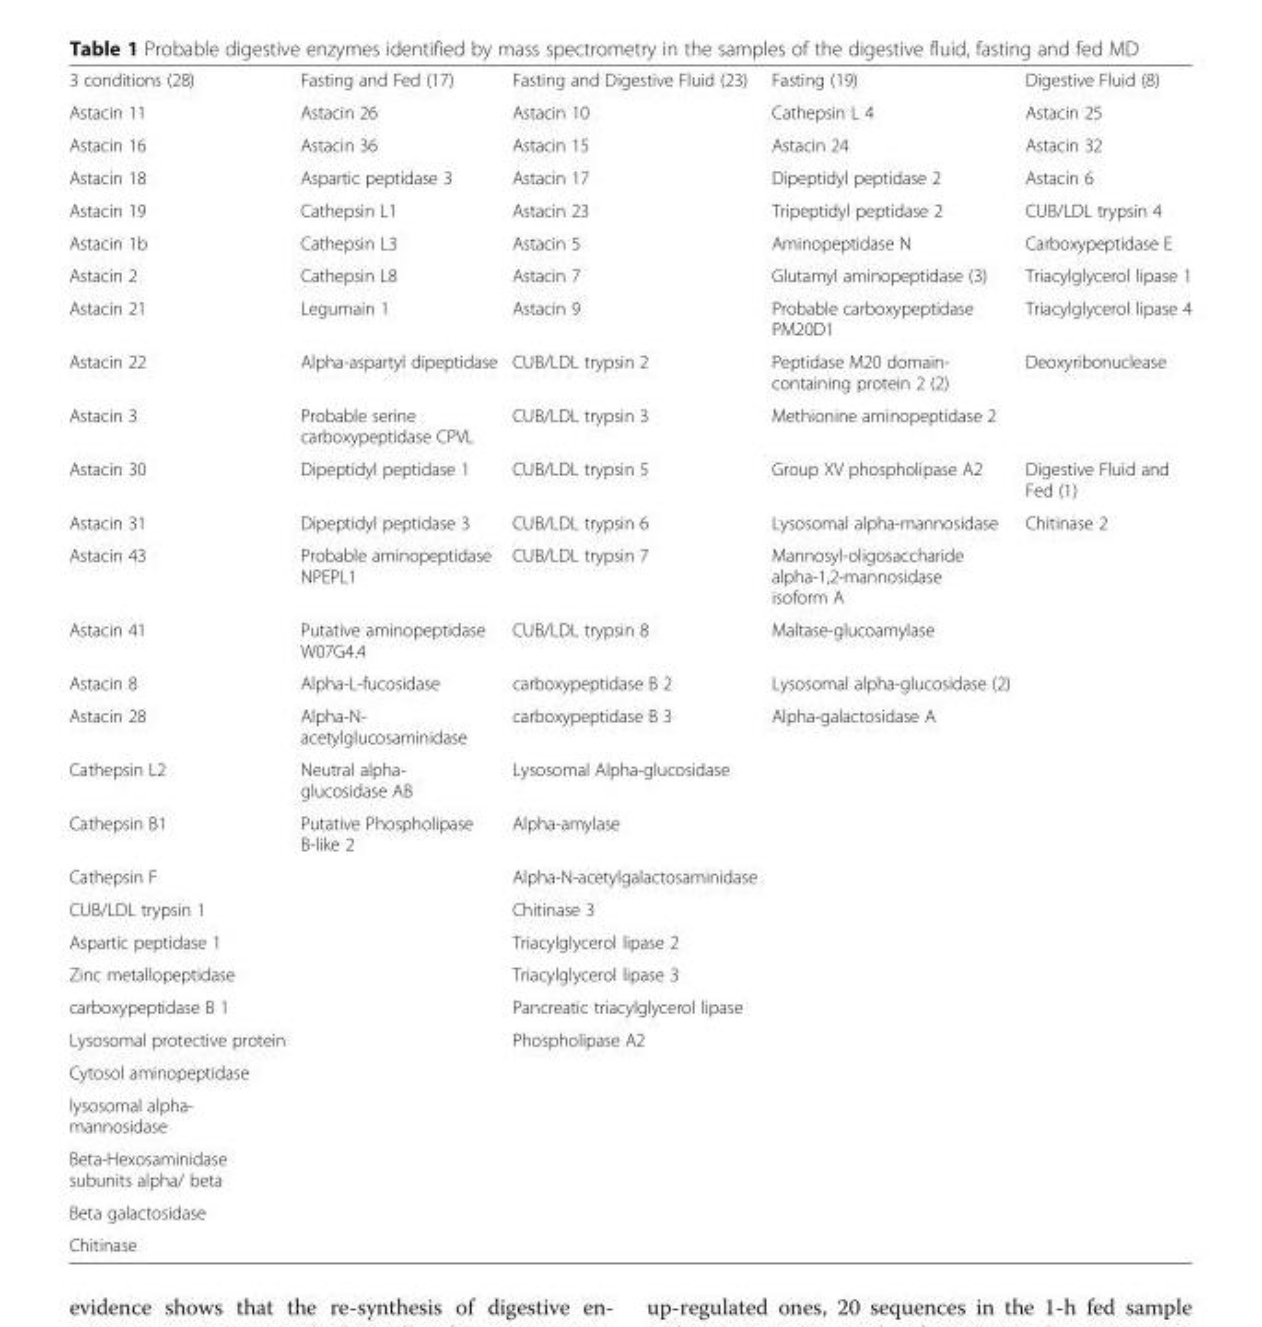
<table><tbody><tr><td>3 conditions (28)</td><td>Fasting and Fed (17)</td><td>Fasting and Digestive Fluid (23)</td><td>Fasting (19)</td><td>Digestive Fluid (8)</td></tr><tr><td>Astacin 11</td><td>Astacin 26</td><td>Astacin 10</td><td>Cathepsin L 4</td><td>Astacin 25</td></tr><tr><td>Astacin 16</td><td>Astacin 36</td><td>Astacin 15</td><td>Astacin 24</td><td>Astacin 32</td></tr><tr><td>Astacin 18</td><td>Aspartic peptidase 3</td><td>Astacin 17</td><td>Dipeptidyl peptidase 2</td><td>Astacin 6</td></tr><tr><td>Astacin 19</td><td>Cathepsin L1</td><td>Astacin 23</td><td>Tripeptidyl peptidase 2</td><td>CUB/LDL trypsin 4</td></tr><tr><td>Astacin 1b</td><td>Cathepsin L3</td><td>Astacin 5</td><td>Aminopeptidase N</td><td>Carboxypeptidase E</td></tr><tr><td>Astacin 2</td><td>Cathepsin L8</td><td>Astacin 7</td><td>Glutamyl aminopeptidase (3)</td><td>Triacylglycerol lipase 1</td></tr><tr><td>Astacin 21</td><td>Legumain 1</td><td>Astacin 9</td><td>Probable carboxypeptidase PM20D1</td><td>Triacylglycerol lipase 4</td></tr><tr><td>Astacin 22</td><td>Alpha-aspartyl dipeptidase</td><td>CUB/LDL trypsin 2</td><td>Peptidase M20 domain- containing protein 2 (2)</td><td>Deoxyribonuclease</td></tr><tr><td>Astacin 3</td><td>Probable serine carboxypeptidase CPVL</td><td>CUB/LDL trypsin 3</td><td>Methionine aminopeptidase 2</td><td></td></tr><tr><td>Astacin 30</td><td>Dipeptidyl peptidase 1</td><td>CUB/LDL trypsin 5</td><td>Group XV phospholipase A2</td><td>Digestive Fluid and Fed (1)</td></tr><tr><td>Astacin 31</td><td>Dipeptidyl peptidase 3</td><td>CUB/LDL trypsin 6</td><td>Lysosomal alpha-mannosidase</td><td>Chitinase 2</td></tr><tr><td>Astacin 43</td><td>Probable aminopeptidase NPEPL1</td><td>CUB/LDL trypsin 7</td><td>Mannosyl-oligosaccharide alpha-1,2-mannosidase isoform A</td><td></td></tr><tr><td>Astacin 41</td><td>Putative aminopeptidase W07G4.4</td><td>CUB/LDL trypsin 8</td><td>Maltase-glucoamylase</td><td></td></tr><tr><td>Astacin 8</td><td>Alpha-L-fucosidase</td><td>carboxypeptidase B 2</td><td>Lysosomal alpha-glucosidase (2)</td><td></td></tr><tr><td>Astacin 28</td><td>Alpha-N- acetylglucosaminidase</td><td>carboxypeptidase B 3</td><td>Alpha-galactosidase A</td><td></td></tr><tr><td>Cathepsin L2</td><td>Neutral alpha- glucosidase AB</td><td>Lysosomal Alpha-glucosidase</td><td></td><td></td></tr><tr><td>Cathepsin B1</td><td>Putative Phospholipase B-like 2</td><td>Alpha-amylase</td><td></td><td></td></tr><tr><td>Cathepsin F</td><td></td><td>Alpha-N-acetylgalactosaminidase</td><td></td><td></td></tr><tr><td>CUB/LDL trypsin 1</td><td></td><td>Chitinase 3</td><td></td><td></td></tr><tr><td>Aspartic peptidase 1</td><td></td><td>Triacylglycerol lipase 2</td><td></td><td></td></tr><tr><td>Zinc metallopeptidase</td><td></td><td>Triacylglycerol lipase 3</td><td></td><td></td></tr><tr><td>carboxypeptidase B 1</td><td></td><td>Pancreatic triacylglycerol lipase</td><td></td><td></td></tr><tr><td>Lysosomal protective protein</td><td></td><td>Phospholipase A2</td><td></td><td></td></tr><tr><td colspan="5">Cytosol aminopeptidase</td></tr><tr><td colspan="5">lysosomal alpha- mannosidase</td></tr><tr><td colspan="5">Beta-Hexosaminidase subunits alpha/ beta</td></tr><tr><td colspan="5">Beta galactosidase</td></tr><tr><td>Chitinase</td><td></td><td></td><td></td><td></td></tr></tbody></table>